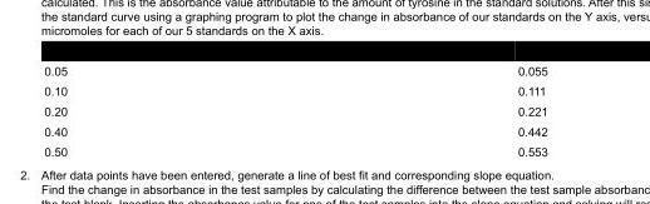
<table><thead><tr><td>Volume of Tyrosine Standard</td><td>uMoles Tyrosine</td></tr></thead><tbody><tr><td>0.05</td><td>0.055</td></tr><tr><td>0.10</td><td>0.111</td></tr><tr><td>0.20</td><td>0.221</td></tr><tr><td>0.40</td><td>0.442</td></tr><tr><td>0.50</td><td>0.553</td></tr></tbody></table>